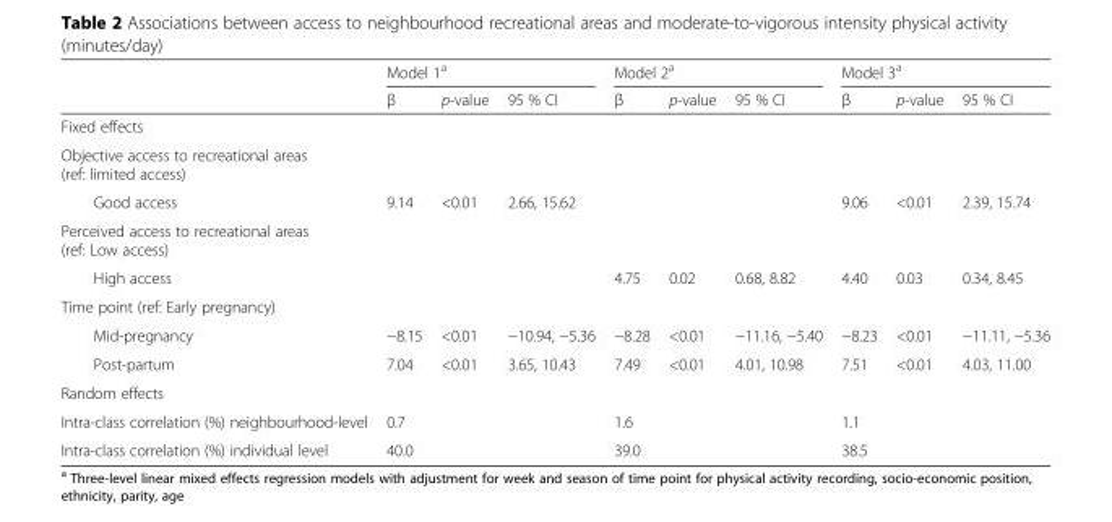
<table><thead><tr><td rowspan="2"></td><td colspan="3">Model 1<sup>a</sup></td><td colspan="3">Model 2<sup>a</sup></td><td colspan="3">Model 3<sup>a</sup></td></tr><tr><td>β</td><td>p-value</td><td>95 % CI</td><td>β</td><td>p-value</td><td>95 % CI</td><td>β</td><td>p-value</td><td>95 % CI</td></tr></thead><tbody><tr><td colspan="10">Fixed effects</td></tr><tr><td colspan="10">Objective access to recreational areas (ref: limited access)</td></tr><tr><td>Good access</td><td>9.14</td><td>&lt;0.01</td><td>2.66, 15.62</td><td></td><td></td><td></td><td>9.06</td><td>&lt;0.01</td><td>2.39, 15.74</td></tr><tr><td colspan="10">Perceived access to recreational areas (ref: Low access)</td></tr><tr><td>High access</td><td></td><td></td><td></td><td>4.75</td><td>0.02</td><td>0.68, 8.82</td><td>4.40</td><td>0.03</td><td>0.34, 8.45</td></tr><tr><td colspan="10">Time point (ref: Early pregnancy)</td></tr><tr><td>Mid-pregnancy</td><td>−8.15</td><td>&lt;0.01</td><td>−10.94, −5.36</td><td>−8.28</td><td>&lt;0.01</td><td>−11.16, −5.40</td><td>−8.23</td><td>&lt;0.01</td><td>−11.11, −5.36</td></tr><tr><td>Post-partum</td><td>7.04</td><td>&lt;0.01</td><td>3.65, 10.43</td><td>7.49</td><td>&lt;0.01</td><td>4.01, 10.98</td><td>7.51</td><td>&lt;0.01</td><td>4.03, 11.00</td></tr><tr><td colspan="10">Random effects</td></tr><tr><td>Intra-class correlation (%) neighbourhood-level</td><td>0.7</td><td></td><td></td><td>1.6</td><td></td><td></td><td>1.1</td><td></td><td></td></tr><tr><td>Intra-class correlation (%) individual level</td><td>40.0</td><td></td><td></td><td>39.0</td><td></td><td></td><td>38.5</td><td></td><td></td></tr></tbody></table>